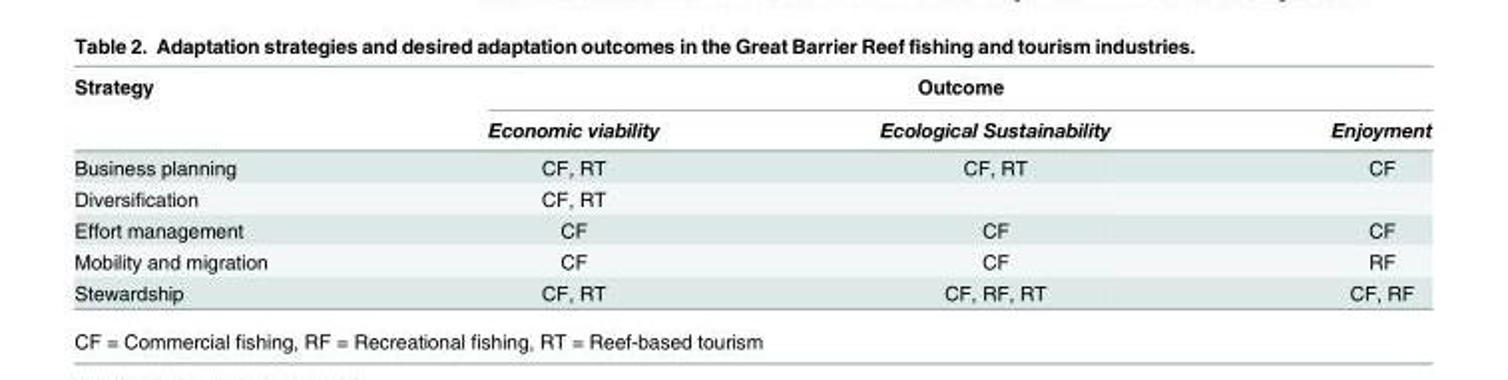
<table><thead><tr><td rowspan="2">Strategy</td><td colspan="3">Outcome</td></tr><tr><td>Economic viability</td><td>Ecological Sustainability</td><td>Enjoyment</td></tr></thead><tbody><tr><td>Business planning</td><td>CF, RT</td><td>CF, RT</td><td>CF</td></tr><tr><td>Diversification</td><td>CF, RT</td><td></td><td></td></tr><tr><td>Effort management</td><td>CF</td><td>CF</td><td>CF</td></tr><tr><td>Mobility and migration</td><td>CF</td><td>CF</td><td>RF</td></tr><tr><td>Stewardship</td><td>CF, RT</td><td>CF, RF, RT</td><td>CF, RF</td></tr></tbody></table>